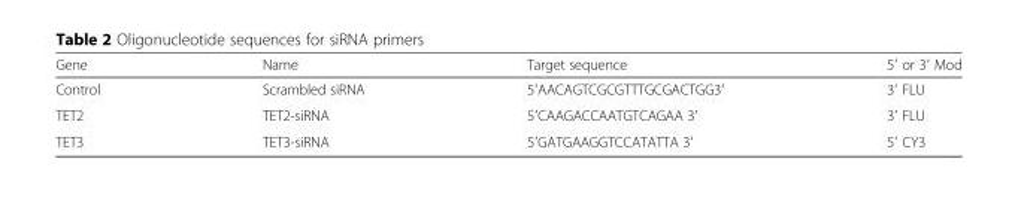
<table><thead><tr><td>Gene</td><td>Name</td><td>Target sequence</td><td>5′ or 3′ Mod</td></tr></thead><tbody><tr><td>Control</td><td>Scrambled siRNA</td><td>5′AACAGTCGCGTTTGCGACTGG3′</td><td>3′ FLU</td></tr><tr><td>TET2</td><td>TET2-siRNA</td><td>5′CAAGACCAATGTCAGAA 3′</td><td>3′ FLU</td></tr><tr><td>TET3</td><td>TET3-siRNA</td><td>5′GATGAAGGTCCATATTA 3′</td><td>5′ CY3</td></tr></tbody></table>